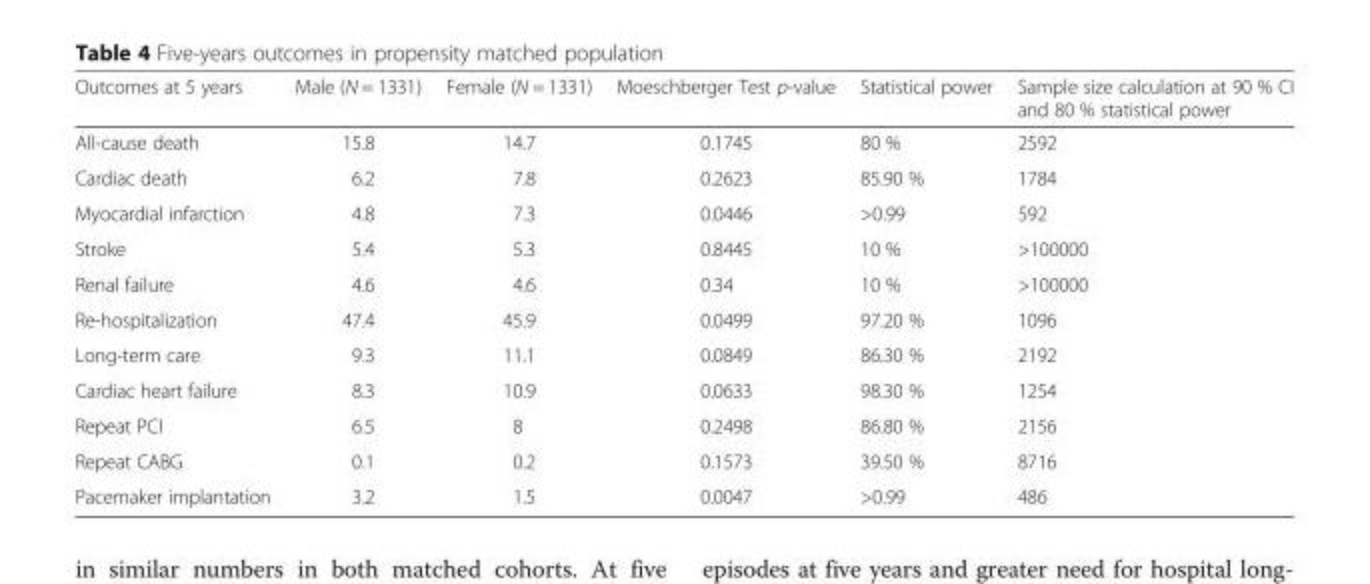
<table><thead><tr><td>Outcomes at 5 years</td><td>Male (N = 1331)</td><td>Female (N = 1331)</td><td>Moeschberger Test p-value</td><td>Statistical power</td><td>Sample size calculation at 90 % CI and 80 % statistical power</td></tr></thead><tbody><tr><td>All-cause death</td><td>15.8</td><td>14.7</td><td>0.1745</td><td>80 %</td><td>2592</td></tr><tr><td>Cardiac death</td><td>6.2</td><td>7.8</td><td>0.2623</td><td>85.90 %</td><td>1784</td></tr><tr><td>Myocardial infarction</td><td>4.8</td><td>7.3</td><td>0.0446</td><td>&gt;0.99</td><td>592</td></tr><tr><td>Stroke</td><td>5.4</td><td>5.3</td><td>0.8445</td><td>10 %</td><td>&gt;100000</td></tr><tr><td>Renal failure</td><td>4.6</td><td>4.6</td><td>0.34</td><td>10 %</td><td>&gt;100000</td></tr><tr><td>Re-hospitalization</td><td>47.4</td><td>45.9</td><td>0.0499</td><td>97.20 %</td><td>1096</td></tr><tr><td>Long-term care</td><td>9.3</td><td>11.1</td><td>0.0849</td><td>86.30 %</td><td>2192</td></tr><tr><td>Cardiac heart failure</td><td>8.3</td><td>10.9</td><td>0.0633</td><td>98.30 %</td><td>1254</td></tr><tr><td>Repeat PCI</td><td>6.5</td><td>8</td><td>0.2498</td><td>86.80 %</td><td>2156</td></tr><tr><td>Repeat CABG</td><td>0.1</td><td>0.2</td><td>0.1573</td><td>39.50 %</td><td>8716</td></tr><tr><td>Pacemaker implantation</td><td>3.2</td><td>1.5</td><td>0.0047</td><td>&gt;0.99</td><td>486</td></tr></tbody></table>